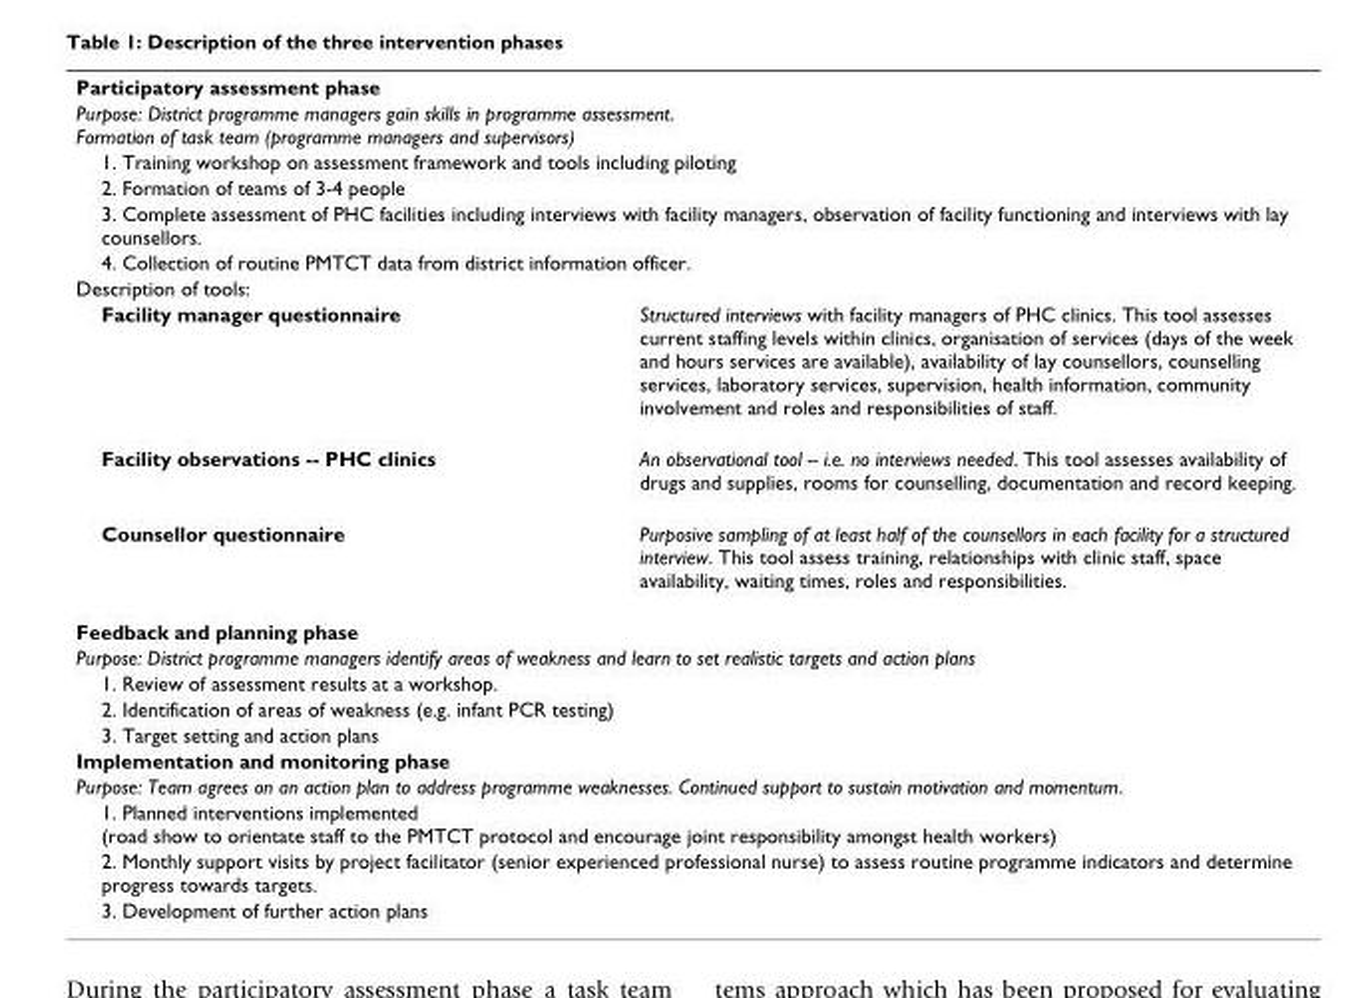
<table><tbody><tr><td colspan="2">Participatory assessment phase</td></tr><tr><td colspan="2">Purpose: District programme managers gain skills in programme assessment. Formation of task team (programme managers and supervisors)</td></tr><tr><td colspan="2">1. Training workshop on assessment framework and tools including piloting</td></tr><tr><td colspan="2">2. Formation of teams of 3-4 people</td></tr><tr><td colspan="2">3. Complete assessment of PHC facilities including interviews with facility managers, observation of facility functioning and interviews with lay counsellors.</td></tr><tr><td colspan="2">4. Collection of routine PMTCT data from district information officer.</td></tr><tr><td colspan="2">Description of tools:</td></tr><tr><td>Facility manager questionnaire</td><td>Structured interviews with facility managers of PHC clinics. This tool assesses current staffing levels within clinics, organisation of services (days of the week and hours services are available), availability of lay counsellors, counselling services, laboratory services, supervision, health information, community involvement and roles and responsibilities of staff.</td></tr><tr><td>Facility observations -- PHC clinics</td><td>An observational tool -- i.e. no interviews needed. This tool assesses availability of drugs and supplies, rooms for counselling, documentation and record keeping.</td></tr><tr><td>Counsellor questionnaire</td><td>Purposive sampling of at least half of the counsellors in each facility for a structured interview. This tool assess training, relationships with clinic staff, space availability, waiting times, roles and responsibilities.</td></tr><tr><td colspan="2">Feedback and planning phase</td></tr><tr><td colspan="2">Purpose: District programme managers identify areas of weakness and learn to set realistic targets and action plans</td></tr><tr><td colspan="2">1. Review of assessment results at a workshop.</td></tr><tr><td colspan="2">2. Identification of areas of weakness (e.g. infant PCR testing)</td></tr><tr><td colspan="2">3. Target setting and action plans</td></tr><tr><td colspan="2">Implementation and monitoring phase</td></tr><tr><td colspan="2">Purpose: Team agrees on an action plan to address programme weaknesses. Continued support to sustain motivation and momentum.</td></tr><tr><td colspan="2">1. Planned interventions implemented (road show to orientate staff to the PMTCT protocol and encourage joint responsibility amongst health workers)</td></tr><tr><td colspan="2">2. Monthly support visits by project facilitator (senior experienced professional nurse) to assess routine programme indicators and determine progress towards targets.</td></tr><tr><td colspan="2">3. Development of further action plans</td></tr></tbody></table>